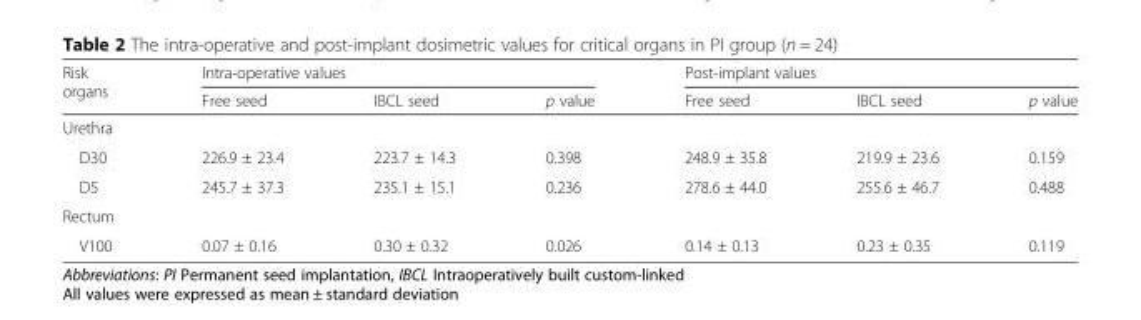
<table><thead><tr><td rowspan="2">Risk organs</td><td colspan="3">Intra-operative values</td><td colspan="3">Post-implant values</td></tr><tr><td>Free seed</td><td>IBCL seed</td><td>p value</td><td>Free seed</td><td>IBCL seed</td><td>p value</td></tr></thead><tbody><tr><td colspan="7">Urethra</td></tr><tr><td>D30</td><td>226.9 ± 23.4</td><td>223.7 ± 14.3</td><td>0.398</td><td>248.9 ± 35.8</td><td>219.9 ± 23.6</td><td>0.159</td></tr><tr><td>D5</td><td>245.7 ± 37.3</td><td>235.1 ± 15.1</td><td>0.236</td><td>278.6 ± 44.0</td><td>255.6 ± 46.7</td><td>0.488</td></tr><tr><td colspan="7">Rectum</td></tr><tr><td>V100</td><td>0.07 ± 0.16</td><td>0.30 ± 0.32</td><td>0.026</td><td>0.14 ± 0.13</td><td>0.23 ± 0.35</td><td>0.119</td></tr></tbody></table>